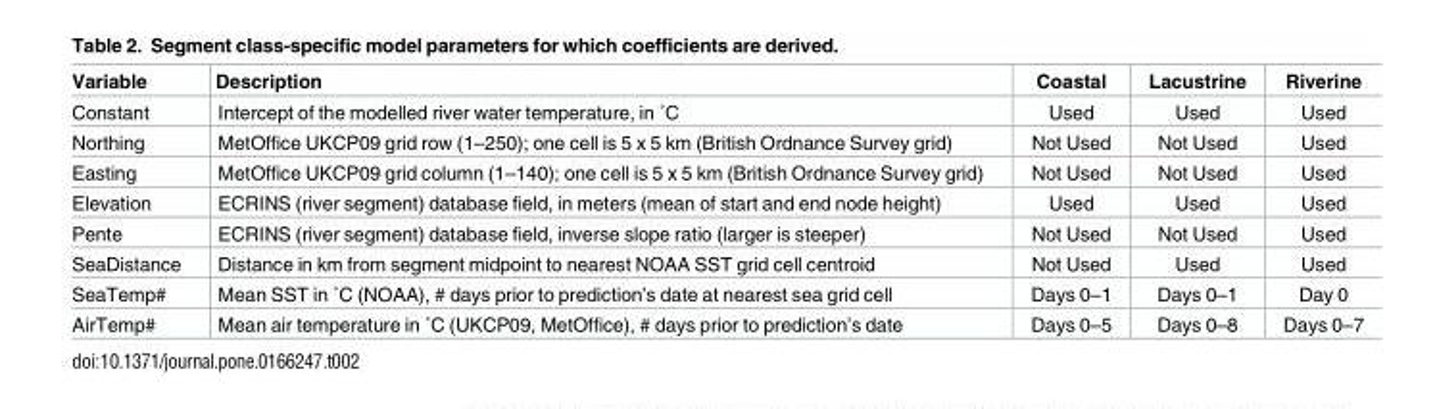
<table><thead><tr><td>Variable</td><td>Description</td><td>Coastal</td><td>Lacustrine</td><td>Riverine</td></tr></thead><tbody><tr><td>Constant</td><td>Intercept of the modelled river water temperature, in ˚C</td><td>Used</td><td>Used</td><td>Used</td></tr><tr><td>Northing</td><td>MetOffice UKCP09 grid row (1–250); one cell is 5 x 5 km (British Ordnance Survey grid)</td><td>Not Used</td><td>Not Used</td><td>Used</td></tr><tr><td>Easting</td><td>MetOffice UKCP09 grid column (1–140); one cell is 5 x 5 km (British Ordnance Survey grid)</td><td>Not Used</td><td>Not Used</td><td>Used</td></tr><tr><td>Elevation</td><td>ECRINS (river segment) database field, in meters (mean of start and end node height)</td><td>Used</td><td>Used</td><td>Used</td></tr><tr><td>Pente</td><td>ECRINS (river segment) database field, inverse slope ratio (larger is steeper)</td><td>Not Used</td><td>Not Used</td><td>Used</td></tr><tr><td>SeaDistance</td><td>Distance in km from segment midpoint to nearest NOAA SST grid cell centroid</td><td>Not Used</td><td>Used</td><td>Used</td></tr><tr><td>SeaTemp#</td><td>Mean SST in ˚C (NOAA), # days prior to prediction’s date at nearest sea grid cell</td><td>Days 0–1</td><td>Days 0–1</td><td>Day 0</td></tr><tr><td>AirTemp#</td><td>Mean air temperature in ˚C (UKCP09, MetOffice), # days prior to prediction’s date</td><td>Days 0–5</td><td>Days 0–8</td><td>Days 0–7</td></tr></tbody></table>